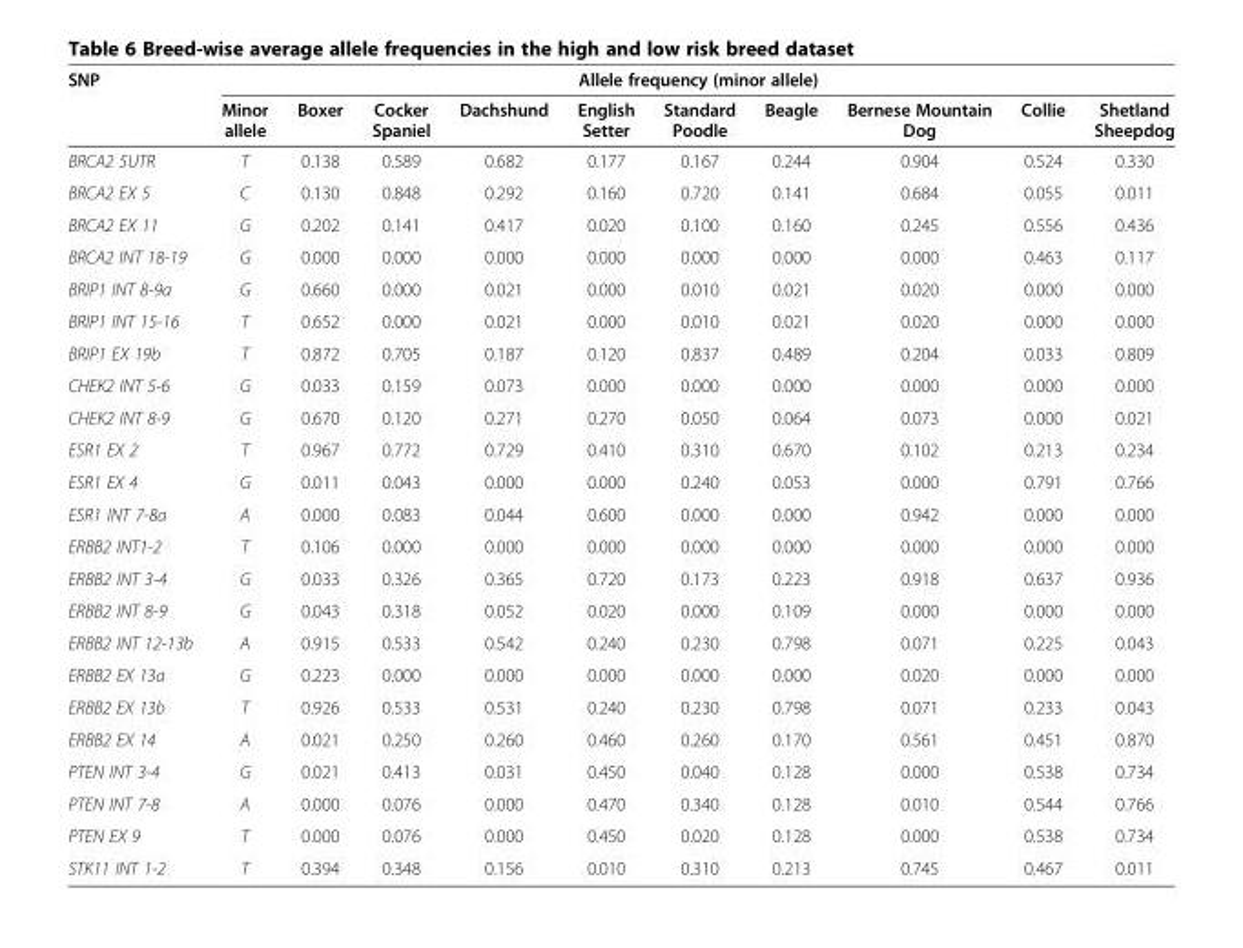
<table><thead><tr><td rowspan="2">SNP</td><td colspan="10">Allele frequency (minor allele)</td></tr><tr><td>Minor allele</td><td>Boxer</td><td>Cocker Spaniel</td><td>Dachshund</td><td>English Setter</td><td>Standard Poodle</td><td>Beagle</td><td>Bernese Mountain Dog</td><td>Collie</td><td>Shetland Sheepdog</td></tr></thead><tbody><tr><td>BRCA2 5UTR</td><td>T</td><td>0.138</td><td>0.589</td><td>0.682</td><td>0.177</td><td>0.167</td><td>0.244</td><td>0.904</td><td>0.524</td><td>0.330</td></tr><tr><td>BRCA2 EX 5</td><td>C</td><td>0.130</td><td>0.848</td><td>0.292</td><td>0.160</td><td>0.720</td><td>0.141</td><td>0.684</td><td>0.055</td><td>0.011</td></tr><tr><td>BRCA2 EX 11</td><td>G</td><td>0.202</td><td>0.141</td><td>0.417</td><td>0.020</td><td>0.100</td><td>0.160</td><td>0.245</td><td>0.556</td><td>0.436</td></tr><tr><td>BRCA2 INT 18-19</td><td>G</td><td>0.000</td><td>0.000</td><td>0.000</td><td>0.000</td><td>0.000</td><td>0.000</td><td>0.000</td><td>0.463</td><td>0.117</td></tr><tr><td>BRIP1 INT 8-9a</td><td>G</td><td>0.660</td><td>0.000</td><td>0.021</td><td>0.000</td><td>0.010</td><td>0.021</td><td>0.020</td><td>0.000</td><td>0.000</td></tr><tr><td>BRIP1 INT 15-16</td><td>T</td><td>0.652</td><td>0.000</td><td>0.021</td><td>0.000</td><td>0.010</td><td>0.021</td><td>0.020</td><td>0.000</td><td>0.000</td></tr><tr><td>BRIP1 EX 19b</td><td>T</td><td>0.872</td><td>0.705</td><td>0.187</td><td>0.120</td><td>0.837</td><td>0.489</td><td>0.204</td><td>0.033</td><td>0.809</td></tr><tr><td>CHEK2 INT 5-6</td><td>G</td><td>0.033</td><td>0.159</td><td>0.073</td><td>0.000</td><td>0.000</td><td>0.000</td><td>0.000</td><td>0.000</td><td>0.000</td></tr><tr><td>CHEK2 INT 8-9</td><td>G</td><td>0.670</td><td>0.120</td><td>0.271</td><td>0.270</td><td>0.050</td><td>0.064</td><td>0.073</td><td>0.000</td><td>0.021</td></tr><tr><td>ESR1 EX 2</td><td>T</td><td>0.967</td><td>0.772</td><td>0.729</td><td>0.410</td><td>0.310</td><td>0.670</td><td>0.102</td><td>0.213</td><td>0.234</td></tr><tr><td>ESR1 EX 4</td><td>G</td><td>0.011</td><td>0.043</td><td>0.000</td><td>0.000</td><td>0.240</td><td>0.053</td><td>0.000</td><td>0.791</td><td>0.766</td></tr><tr><td>ESR1 INT 7-8a</td><td>A</td><td>0.000</td><td>0.083</td><td>0.044</td><td>0.600</td><td>0.000</td><td>0.000</td><td>0.942</td><td>0.000</td><td>0.000</td></tr><tr><td>ERBB2 INT1-2</td><td>T</td><td>0.106</td><td>0.000</td><td>0.000</td><td>0.000</td><td>0.000</td><td>0.000</td><td>0.000</td><td>0.000</td><td>0.000</td></tr><tr><td>ERBB2 INT 3-4</td><td>G</td><td>0.033</td><td>0.326</td><td>0.365</td><td>0.720</td><td>0.173</td><td>0.223</td><td>0.918</td><td>0.637</td><td>0.936</td></tr><tr><td>ERBB2 INT 8-9</td><td>G</td><td>0.043</td><td>0.318</td><td>0.052</td><td>0.020</td><td>0.000</td><td>0.109</td><td>0.000</td><td>0.000</td><td>0.000</td></tr><tr><td>ERBB2 INT 12-13b</td><td>A</td><td>0.915</td><td>0.533</td><td>0.542</td><td>0.240</td><td>0.230</td><td>0.798</td><td>0.071</td><td>0.225</td><td>0.043</td></tr><tr><td>ERBB2 EX 13a</td><td>G</td><td>0.223</td><td>0.000</td><td>0.000</td><td>0.000</td><td>0.000</td><td>0.000</td><td>0.020</td><td>0.000</td><td>0.000</td></tr><tr><td>ERBB2 EX 13b</td><td>T</td><td>0.926</td><td>0.533</td><td>0.531</td><td>0.240</td><td>0.230</td><td>0.798</td><td>0.071</td><td>0.233</td><td>0.043</td></tr><tr><td>ERBB2 EX 14</td><td>A</td><td>0.021</td><td>0.250</td><td>0.260</td><td>0.460</td><td>0.260</td><td>0.170</td><td>0.561</td><td>0.451</td><td>0.870</td></tr><tr><td>PTEN INT 3-4</td><td>G</td><td>0.021</td><td>0.413</td><td>0.031</td><td>0.450</td><td>0.040</td><td>0.128</td><td>0.000</td><td>0.538</td><td>0.734</td></tr><tr><td>PTEN INT 7-8</td><td>A</td><td>0.000</td><td>0.076</td><td>0.000</td><td>0.470</td><td>0.340</td><td>0.128</td><td>0.010</td><td>0.544</td><td>0.766</td></tr><tr><td>PTEN EX 9</td><td>T</td><td>0.000</td><td>0.076</td><td>0.000</td><td>0.450</td><td>0.020</td><td>0.128</td><td>0.000</td><td>0.538</td><td>0.734</td></tr><tr><td>STK11 INT 1-2</td><td>T</td><td>0.394</td><td>0.348</td><td>0.156</td><td>0.010</td><td>0.310</td><td>0.213</td><td>0.745</td><td>0.467</td><td>0.011</td></tr></tbody></table>